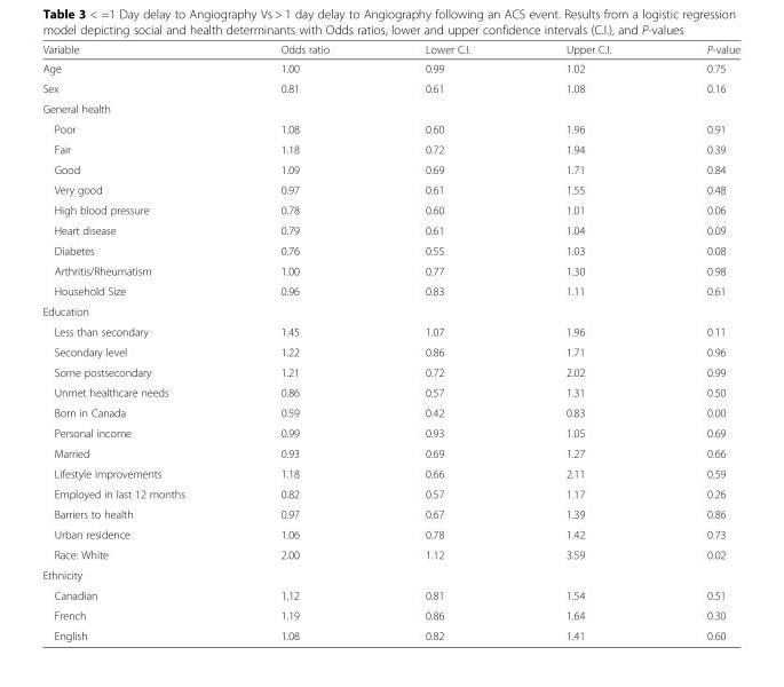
<table><thead><tr><td>Variable</td><td>Odds ratio</td><td>Lower C.I.</td><td>Upper C.I.</td><td>P-value</td></tr></thead><tbody><tr><td>Age</td><td>1.00</td><td>0.99</td><td>1.02</td><td>0.75</td></tr><tr><td>Sex</td><td>0.81</td><td>0.61</td><td>1.08</td><td>0.16</td></tr><tr><td colspan="5">General health</td></tr><tr><td>Poor</td><td>1.08</td><td>0.60</td><td>1.96</td><td>0.91</td></tr><tr><td>Fair</td><td>1.18</td><td>0.72</td><td>1.94</td><td>0.39</td></tr><tr><td>Good</td><td>1.09</td><td>0.69</td><td>1.71</td><td>0.84</td></tr><tr><td>Very good</td><td>0.97</td><td>0.61</td><td>1.55</td><td>0.48</td></tr><tr><td>High blood pressure</td><td>0.78</td><td>0.60</td><td>1.01</td><td>0.06</td></tr><tr><td>Heart disease</td><td>0.79</td><td>0.61</td><td>1.04</td><td>0.09</td></tr><tr><td>Diabetes</td><td>0.76</td><td>0.55</td><td>1.03</td><td>0.08</td></tr><tr><td>Arthritis/Rheumatism</td><td>1.00</td><td>0.77</td><td>1.30</td><td>0.98</td></tr><tr><td>Household Size</td><td>0.96</td><td>0.83</td><td>1.11</td><td>0.61</td></tr><tr><td colspan="5">Education</td></tr><tr><td>Less than secondary</td><td>1.45</td><td>1.07</td><td>1.96</td><td>0.11</td></tr><tr><td>Secondary level</td><td>1.22</td><td>0.86</td><td>1.71</td><td>0.96</td></tr><tr><td>Some postsecondary</td><td>1.21</td><td>0.72</td><td>2.02</td><td>0.99</td></tr><tr><td>Unmet healthcare needs</td><td>0.86</td><td>0.57</td><td>1.31</td><td>0.50</td></tr><tr><td>Born in Canada</td><td>0.59</td><td>0.42</td><td>0.83</td><td>0.00</td></tr><tr><td>Personal income</td><td>0.99</td><td>0.93</td><td>1.05</td><td>0.69</td></tr><tr><td>Married</td><td>0.93</td><td>0.69</td><td>1.27</td><td>0.66</td></tr><tr><td>Lifestyle improvements</td><td>1.18</td><td>0.66</td><td>2.11</td><td>0.59</td></tr><tr><td>Employed in last 12 months</td><td>0.82</td><td>0.57</td><td>1.17</td><td>0.26</td></tr><tr><td>Barriers to health</td><td>0.97</td><td>0.67</td><td>1.39</td><td>0.86</td></tr><tr><td>Urban residence</td><td>1.06</td><td>0.78</td><td>1.42</td><td>0.73</td></tr><tr><td>Race: White</td><td>2.00</td><td>1.12</td><td>3.59</td><td>0.02</td></tr><tr><td colspan="5">Ethnicity</td></tr><tr><td>Canadian</td><td>1.12</td><td>0.81</td><td>1.54</td><td>0.51</td></tr><tr><td>French</td><td>1.19</td><td>0.86</td><td>1.64</td><td>0.30</td></tr><tr><td>English</td><td>1.08</td><td>0.82</td><td>1.41</td><td>0.60</td></tr></tbody></table>